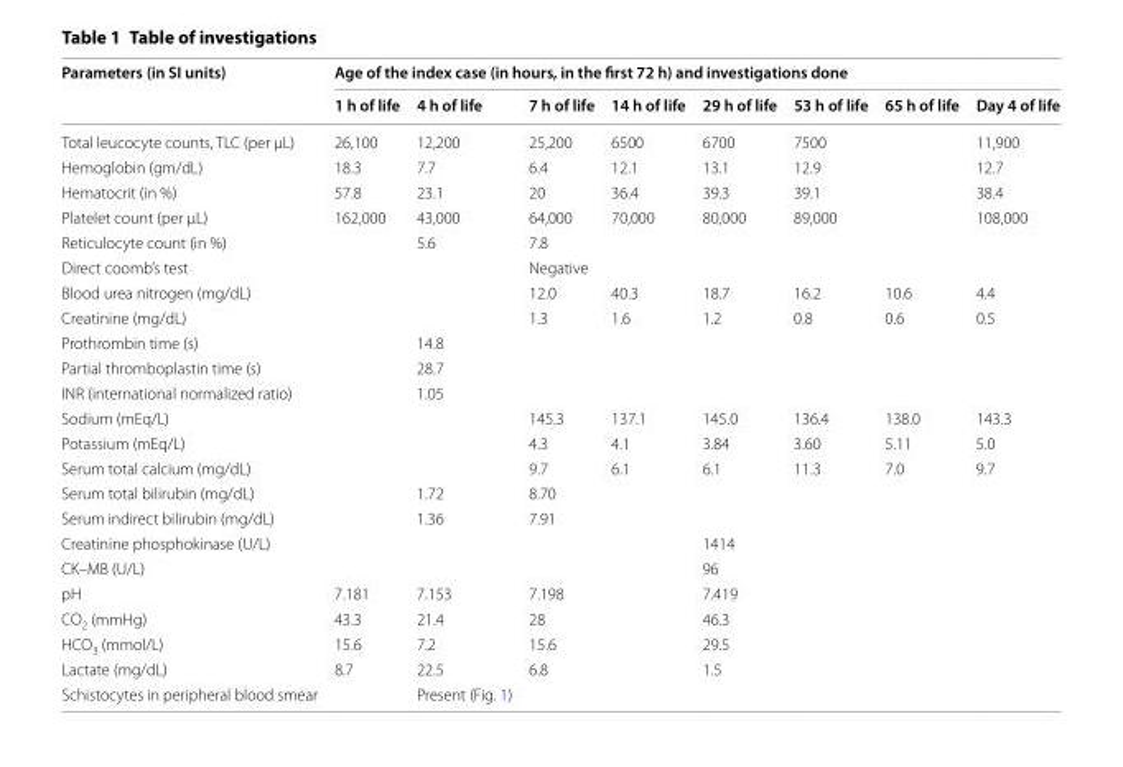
<table><thead><tr><td rowspan="2">Parameters (in SI units)</td><td colspan="8">Age of the index case (in hours, in the first 72 h) and investigations done</td></tr><tr><td>1 h of life</td><td>4 h of life</td><td>7 h of life</td><td>14 h of life</td><td>29 h of life</td><td>53 h of life</td><td>65 h of life</td><td>Day 4 of life</td></tr></thead><tbody><tr><td>Total leucocyte counts, TLC (per μL)</td><td>26,100</td><td>12,200</td><td>25,200</td><td>6500</td><td>6700</td><td>7500</td><td></td><td>11,900</td></tr><tr><td>Hemoglobin (gm/dL)</td><td>18.3</td><td>7.7</td><td>6.4</td><td>12.1</td><td>13.1</td><td>12.9</td><td></td><td>12.7</td></tr><tr><td>Hematocrit (in %)</td><td>57.8</td><td>23.1</td><td>20</td><td>36.4</td><td>39.3</td><td>39.1</td><td></td><td>38.4</td></tr><tr><td>Platelet count (per μL)</td><td>162,000</td><td>43,000</td><td>64,000</td><td>70,000</td><td>80,000</td><td>89,000</td><td></td><td>108,000</td></tr><tr><td>Reticulocyte count (in %)</td><td></td><td>5.6</td><td>7.8</td><td></td><td></td><td></td><td></td><td></td></tr><tr><td>Direct coomb’s test</td><td></td><td></td><td>Negative</td><td></td><td></td><td></td><td></td><td></td></tr><tr><td>Blood urea nitrogen (mg/dL)</td><td></td><td></td><td>12.0</td><td>40.3</td><td>18.7</td><td>16.2</td><td>10.6</td><td>4.4</td></tr><tr><td>Creatinine (mg/dL)</td><td></td><td></td><td>1.3</td><td>1.6</td><td>1.2</td><td>0.8</td><td>0.6</td><td>0.5</td></tr><tr><td>Prothrombin time (s)</td><td></td><td>14.8</td><td></td><td></td><td></td><td></td><td></td><td></td></tr><tr><td>Partial thromboplastin time (s)</td><td></td><td>28.7</td><td></td><td></td><td></td><td></td><td></td><td></td></tr><tr><td>INR (international normalized ratio)</td><td></td><td>1.05</td><td></td><td></td><td></td><td></td><td></td><td></td></tr><tr><td>Sodium (mEq/L)</td><td></td><td></td><td>145.3</td><td>137.1</td><td>145.0</td><td>136.4</td><td>138.0</td><td>143.3</td></tr><tr><td>Potassium (mEq/L)</td><td></td><td></td><td>4.3</td><td>4.1</td><td>3.84</td><td>3.60</td><td>5.11</td><td>5.0</td></tr><tr><td>Serum total calcium (mg/dL)</td><td></td><td></td><td>9.7</td><td>6.1</td><td>6.1</td><td>11.3</td><td>7.0</td><td>9.7</td></tr><tr><td>Serum total bilirubin (mg/dL)</td><td></td><td>1.72</td><td>8.70</td><td></td><td></td><td></td><td></td><td></td></tr><tr><td>Serum indirect bilirubin (mg/dL)</td><td></td><td>1.36</td><td>7.91</td><td></td><td></td><td></td><td></td><td></td></tr><tr><td>Creatinine phosphokinase (U/L)</td><td></td><td></td><td></td><td></td><td>1414</td><td></td><td></td><td></td></tr><tr><td>CK–MB (U/L)</td><td></td><td></td><td></td><td></td><td>96</td><td></td><td></td><td></td></tr><tr><td>pH</td><td>7.181</td><td>7.153</td><td>7.198</td><td></td><td>7.419</td><td></td><td></td><td></td></tr><tr><td>CO<sub>2</sub> (mmHg)</td><td>43.3</td><td>21.4</td><td>28</td><td></td><td>46.3</td><td></td><td></td><td></td></tr><tr><td>HCO<sub>3</sub> (mmol/L)</td><td>15.6</td><td>7.2</td><td>15.6</td><td></td><td>29.5</td><td></td><td></td><td></td></tr><tr><td>Lactate (mg/dL)</td><td>8.7</td><td>22.5</td><td>6.8</td><td></td><td>1.5</td><td></td><td></td><td></td></tr><tr><td>Schistocytes in peripheral blood smear</td><td></td><td>Present (Fig. 1)</td><td></td><td></td><td></td><td></td><td></td><td></td></tr></tbody></table>